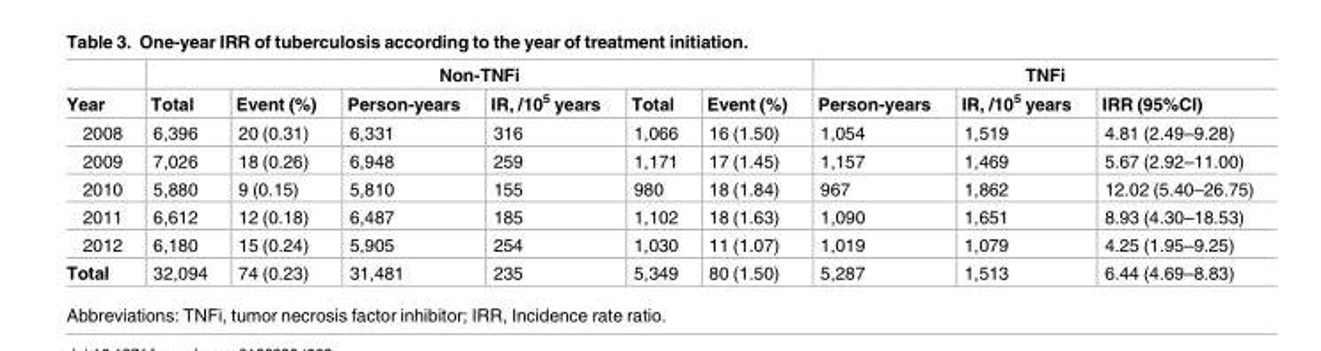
<table><thead><tr><td rowspan="2">Year</td><td colspan="6">Non-TNFi</td><td colspan="3">TNFi</td></tr><tr><td>Total</td><td>Event (%)</td><td>Person-years</td><td>IR, /10<sup>5</sup> years</td><td>Total</td><td>Event (%)</td><td>Person-years</td><td>IR, /10<sup>5</sup> years</td><td>IRR (95%CI)</td></tr></thead><tbody><tr><td>2008</td><td>6,396</td><td>20 (0.31)</td><td>6,331</td><td>316</td><td>1,066</td><td>16 (1.50)</td><td>1,054</td><td>1,519</td><td>4.81 (2.49–9.28)</td></tr><tr><td>2009</td><td>7,026</td><td>18 (0.26)</td><td>6,948</td><td>259</td><td>1,171</td><td>17 (1.45)</td><td>1,157</td><td>1,469</td><td>5.67 (2.92–11.00)</td></tr><tr><td>2010</td><td>5,880</td><td>9 (0.15)</td><td>5,810</td><td>155</td><td>980</td><td>18 (1.84)</td><td>967</td><td>1,862</td><td>12.02 (5.40–26.75)</td></tr><tr><td>2011</td><td>6,612</td><td>12 (0.18)</td><td>6,487</td><td>185</td><td>1,102</td><td>18 (1.63)</td><td>1,090</td><td>1,651</td><td>8.93 (4.30–18.53)</td></tr><tr><td>2012</td><td>6,180</td><td>15 (0.24)</td><td>5,905</td><td>254</td><td>1,030</td><td>11 (1.07)</td><td>1,019</td><td>1,079</td><td>4.25 (1.95–9.25)</td></tr><tr><td>Total</td><td>32,094</td><td>74 (0.23)</td><td>31,481</td><td>235</td><td>5,349</td><td>80 (1.50)</td><td>5,287</td><td>1,513</td><td>6.44 (4.69–8.83)</td></tr></tbody></table>